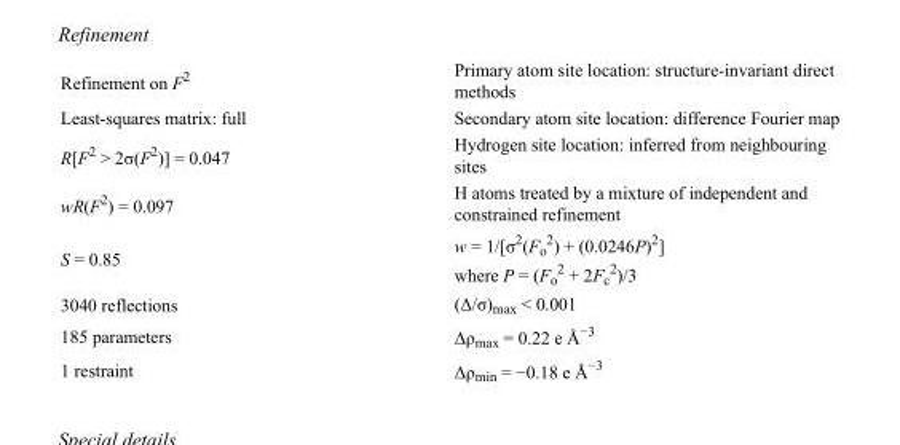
<table><tbody><tr><td>Refinement on F<sup>2</sup></td><td>Primary atom site location: structure-invariant direct methods</td></tr><tr><td>Least-squares matrix: full</td><td>Secondary atom site location: difference Fourier map</td></tr><tr><td>R[F<sup>2</sup> &gt; 2σ(F<sup>2</sup>)] = 0.047</td><td>Hydrogen site location: inferred from neighbouring sites</td></tr><tr><td>wR(F<sup>2</sup>) = 0.097</td><td>H atoms treated by a mixture of independent and constrained refinement</td></tr><tr><td>S = 0.85</td><td>w = 1/[σ<sup>2</sup>(F<sub>o</sub> <sup>2</sup>) + (0.0246P)<sup>2</sup>] where P = (F<sub>o</sub> <sup>2</sup> + 2F<sub>c</sub> <sup>2</sup>)/3</td></tr><tr><td>3040 reflections</td><td>(Δ/σ)<sub>max</sub> &lt; 0.001</td></tr><tr><td>185 parameters</td><td>Δρ<sub>max</sub> = 0.22 e Å<sup>−3</sup></td></tr><tr><td>1 restraint</td><td>Δρ<sub>min</sub> = −0.18 e Å<sup>−3</sup></td></tr></tbody></table>